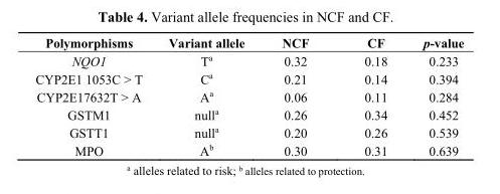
<table><thead><tr><td>Polymorphisms</td><td>Variant allele</td><td>NCF</td><td>CF</td><td>p-value</td></tr></thead><tbody><tr><td>NQO1</td><td>T<sup>a</sup></td><td>0.32</td><td>0.18</td><td>0.233</td></tr><tr><td>CYP2E1 1053C &gt; T</td><td>C<sup>a</sup></td><td>0.21</td><td>0.14</td><td>0.394</td></tr><tr><td>CYP2E17632T &gt; A</td><td>A<sup>a</sup></td><td>0.06</td><td>0.11</td><td>0.284</td></tr><tr><td>GSTM1</td><td>null<sup>a</sup></td><td>0.26</td><td>0.34</td><td>0.452</td></tr><tr><td>GSTT1</td><td>null<sup>a</sup></td><td>0.20</td><td>0.26</td><td>0.539</td></tr><tr><td>MPO</td><td>A<sup>b</sup></td><td>0.30</td><td>0.31</td><td>0.639</td></tr></tbody></table>